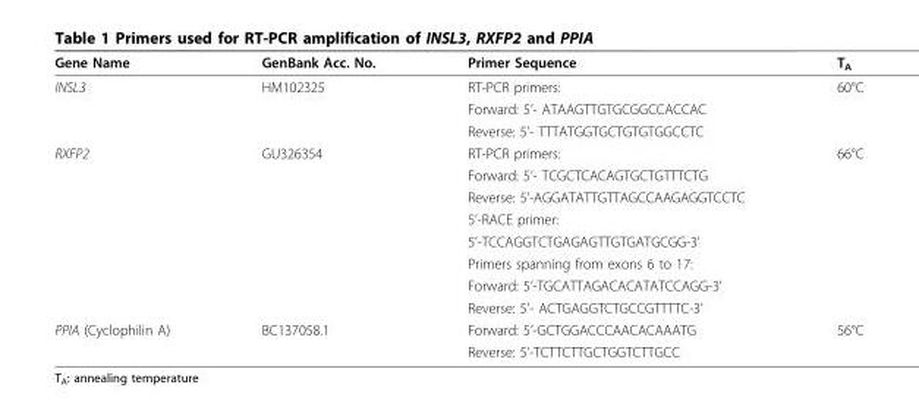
<table><thead><tr><td>Gene Name</td><td>GenBank Acc. No.</td><td>Primer Sequence</td><td>T<sub>A</sub></td></tr></thead><tbody><tr><td rowspan="3">INSL3</td><td>HM102325</td><td>RT-PCR primers:</td><td>60°C</td></tr><tr><td></td><td>Forward: 5’- ATAAGTTGTGCGGCCACCAC</td><td></td></tr><tr><td></td><td>Reverse: 5’- TTTATGGTGCTGTGTGGCCTC</td><td></td></tr><tr><td rowspan="8">RXFP2</td><td>GU326354</td><td>RT-PCR primers:</td><td>66°C</td></tr><tr><td></td><td>Forward: 5’- TCGCTCACAGTGCTGTTTCTG</td><td></td></tr><tr><td></td><td>Reverse: 5’-AGGATATTGTTAGCCAAGAGGTCCTC</td><td></td></tr><tr><td></td><td>5’-RACE primer:</td><td></td></tr><tr><td></td><td>5’-TCCAGGTCTGAGAGTTGTGATGCGG-3’</td><td></td></tr><tr><td></td><td>Primers spanning from exons 6 to 17:</td><td></td></tr><tr><td></td><td>Forward: 5’-TGCATTAGACACATATCCAGG-3’</td><td></td></tr><tr><td></td><td>Reverse: 5’- ACTGAGGTCTGCCGTTTTC-3’</td><td></td></tr><tr><td rowspan="2">PPIA (Cyclophilin A)</td><td>BC137058.1</td><td>Forward: 5’-GCTGGACCCAACACAAATG</td><td>56°C</td></tr><tr><td></td><td>Reverse: 5’-TCTTCTTGCTGGTCTTGCC</td><td></td></tr></tbody></table>